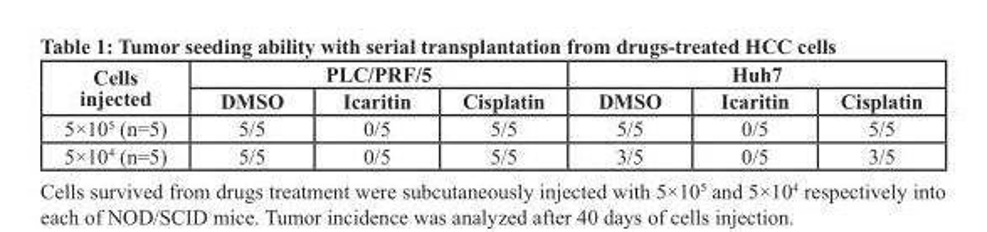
<table><thead><tr><td rowspan="2">Cells injected</td><td colspan="3">PLC/PRF/5</td><td colspan="3">Huh7</td></tr><tr><td>DMSO</td><td>Icaritin</td><td>Cisplatin</td><td>DMSO</td><td>Icaritin</td><td>Cisplatin</td></tr></thead><tbody><tr><td>5×10<sup>5</sup> (n=5)</td><td>5/5</td><td>0/5</td><td>5/5</td><td>5/5</td><td>0/5</td><td>5/5</td></tr><tr><td>5×10<sup>4</sup> (n=5)</td><td>5/5</td><td>0/5</td><td>5/5</td><td>3/5</td><td>0/5</td><td>3/5</td></tr></tbody></table>